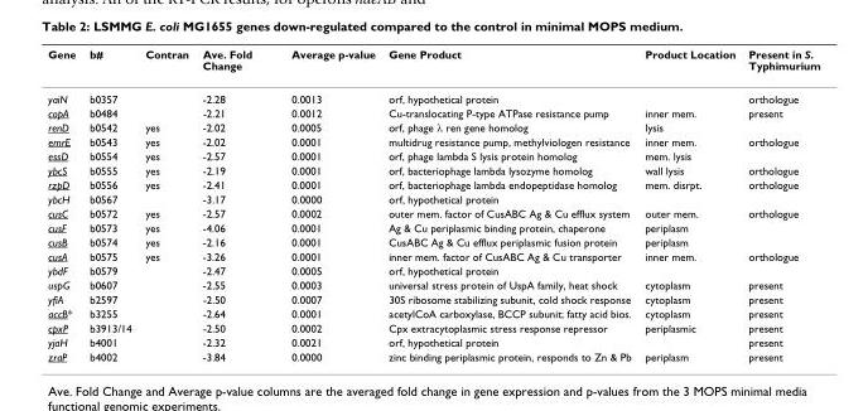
<table><thead><tr><td>Gene</td><td>b#</td><td>Contran</td><td>Ave. Fold Change</td><td>Average p-value</td><td>Gene Product</td><td>Product Location</td><td>Present in S. Typhimurium</td></tr></thead><tbody><tr><td>yaiN</td><td>b0357</td><td></td><td>-2.28</td><td>0.0013</td><td>orf, hypothetical protein</td><td></td><td>orthologue</td></tr><tr><td>copA</td><td>b0484</td><td></td><td>-2.21</td><td>0.0012</td><td>Cu-translocating P-type ATPase resistance pump</td><td>inner mem.</td><td>present</td></tr><tr><td>renD</td><td>b0542</td><td>yes</td><td>-2.02</td><td>0.0005</td><td>orf, phage λ ren gene homolog</td><td>lysis</td><td></td></tr><tr><td>emrE</td><td>b0543</td><td>yes</td><td>-2.02</td><td>0.0001</td><td>multidrug resistance pump, methylviologen resistance</td><td>inner mem.</td><td>orthologue</td></tr><tr><td>essD</td><td>b0554</td><td>yes</td><td>-2.57</td><td>0.0001</td><td>orf, phage lambda S lysis protein homolog</td><td>mem. lysis</td><td></td></tr><tr><td>ybcS</td><td>b0555</td><td>yes</td><td>-2.19</td><td>0.0001</td><td>orf, bacteriophage lambda lysozyme homolog</td><td>wall lysis</td><td>orthologue</td></tr><tr><td>rzpD</td><td>b0556</td><td>yes</td><td>-2.41</td><td>0.0001</td><td>orf, bacteriophage lambda endopeptidase homolog</td><td>mem. disrpt.</td><td>orthologue</td></tr><tr><td>ybcH</td><td>b0567</td><td></td><td>-3.17</td><td>0.0000</td><td>orf, hypothetical protein</td><td></td><td></td></tr><tr><td>cusC</td><td>b0572</td><td>yes</td><td>-2.57</td><td>0.0002</td><td>outer mem. factor of CusABC Ag &amp; Cu efflux system</td><td>outer mem.</td><td>orthologue</td></tr><tr><td>cusF</td><td>b0573</td><td>yes</td><td>-4.06</td><td>0.0001</td><td>Ag &amp; Cu periplasmic binding protein, chaperone</td><td>periplasm</td><td></td></tr><tr><td>cusB</td><td>b0574</td><td>yes</td><td>-2.16</td><td>0.0001</td><td>CusABC Ag &amp; Cu efflux periplasmic fusion protein</td><td>periplasm</td><td></td></tr><tr><td>cusA</td><td>b0575</td><td>yes</td><td>-3.26</td><td>0.0001</td><td>inner mem. factor of CusABC Ag &amp; Cu transporter</td><td>inner mem.</td><td>orthologue</td></tr><tr><td>ybdF</td><td>b0579</td><td></td><td>-2.47</td><td>0.0005</td><td>orf, hypothetical protein</td><td></td><td></td></tr><tr><td>uspG</td><td>b0607</td><td></td><td>-2.55</td><td>0.0003</td><td>universal stress protein of UspA family, heat shock</td><td>cytoplasm</td><td>present</td></tr><tr><td>yfiA</td><td>b2597</td><td></td><td>-2.50</td><td>0.0007</td><td>30S ribosome stabilizing subunit, cold shock response</td><td>cytoplasm</td><td>present</td></tr><tr><td>accB*</td><td>b3255</td><td></td><td>-2.64</td><td>0.0001</td><td>acetylCoA carboxylase, BCCP subunit; fatty acid bios.</td><td>cytoplasm</td><td>present</td></tr><tr><td>cpxP</td><td>b3913/14</td><td></td><td>-2.50</td><td>0.0002</td><td>Cpx extracytoplasmic stress response repressor</td><td>periplasmic</td><td>present</td></tr><tr><td>yjaH</td><td>b4001</td><td></td><td>-2.32</td><td>0.0021</td><td>orf, hypothetical protein</td><td></td><td>present</td></tr><tr><td>zraP</td><td>b4002</td><td></td><td>-3.84</td><td>0.0000</td><td>zinc binding periplasmic protein, responds to Zn &amp; Pb</td><td>periplasm</td><td>present</td></tr></tbody></table>